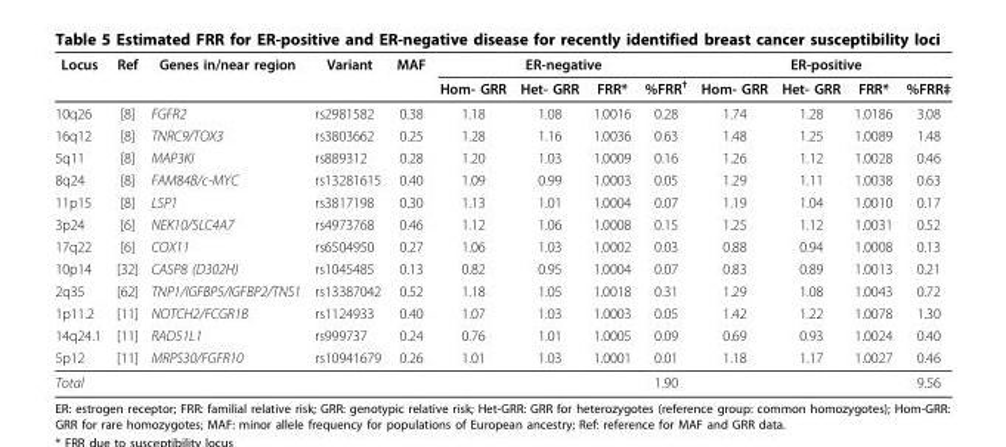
<table><thead><tr><td rowspan="2">Locus</td><td rowspan="2">Ref</td><td rowspan="2">Genes in/near region</td><td rowspan="2">Variant</td><td rowspan="2">MAF</td><td colspan="4">ER-negative</td><td colspan="4">ER-positive</td></tr><tr><td>Hom- GRR</td><td>Het- GRR</td><td>FRR*</td><td>%FRR<sup>†</sup></td><td>Hom- GRR</td><td>Het- GRR</td><td>FRR*</td><td>%FRR‡</td></tr></thead><tbody><tr><td>10q26</td><td>[8]</td><td>FGFR2</td><td>rs2981582</td><td>0.38</td><td>1.18</td><td>1.08</td><td>1.0016</td><td>0.28</td><td>1.74</td><td>1.28</td><td>1.0186</td><td>3.08</td></tr><tr><td>16q12</td><td>[8]</td><td>TNRC9/TOX3</td><td>rs3803662</td><td>0.25</td><td>1.28</td><td>1.16</td><td>1.0036</td><td>0.63</td><td>1.48</td><td>1.25</td><td>1.0089</td><td>1.48</td></tr><tr><td>5q11</td><td>[8]</td><td>MAP3KI</td><td>rs889312</td><td>0.28</td><td>1.20</td><td>1.03</td><td>1.0009</td><td>0.16</td><td>1.26</td><td>1.12</td><td>1.0028</td><td>0.46</td></tr><tr><td>8q24</td><td>[8]</td><td>FAM84B/c-MYC</td><td>rs13281615</td><td>0.40</td><td>1.09</td><td>0.99</td><td>1.0003</td><td>0.05</td><td>1.29</td><td>1.11</td><td>1.0038</td><td>0.63</td></tr><tr><td>11p15</td><td>[8]</td><td>LSP1</td><td>rs3817198</td><td>0.30</td><td>1.13</td><td>1.01</td><td>1.0004</td><td>0.07</td><td>1.19</td><td>1.04</td><td>1.0010</td><td>0.17</td></tr><tr><td>3p24</td><td>[6]</td><td>NEK10/SLC4A7</td><td>rs4973768</td><td>0.46</td><td>1.12</td><td>1.06</td><td>1.0008</td><td>0.15</td><td>1.25</td><td>1.12</td><td>1.0031</td><td>0.52</td></tr><tr><td>17q22</td><td>[6]</td><td>COX11</td><td>rs6504950</td><td>0.27</td><td>1.06</td><td>1.03</td><td>1.0002</td><td>0.03</td><td>0.88</td><td>0.94</td><td>1.0008</td><td>0.13</td></tr><tr><td>10p14</td><td>[32]</td><td>CASP8 (D302H)</td><td>rs1045485</td><td>0.13</td><td>0.82</td><td>0.95</td><td>1.0004</td><td>0.07</td><td>0.83</td><td>0.89</td><td>1.0013</td><td>0.21</td></tr><tr><td>2q35</td><td>[62]</td><td>TNP1/IGFBP5/IGFBP2/TNS1</td><td>rs13387042</td><td>0.52</td><td>1.18</td><td>1.05</td><td>1.0018</td><td>0.31</td><td>1.29</td><td>1.08</td><td>1.0043</td><td>0.72</td></tr><tr><td>1p11.2</td><td>[11]</td><td>NOTCH2/FCGR1B</td><td>rs1124933</td><td>0.40</td><td>1.07</td><td>1.03</td><td>1.0003</td><td>0.05</td><td>1.42</td><td>1.22</td><td>1.0078</td><td>1.30</td></tr><tr><td>14q24.1</td><td>[11]</td><td>RAD51L1</td><td>rs999737</td><td>0.24</td><td>0.76</td><td>1.01</td><td>1.0005</td><td>0.09</td><td>0.69</td><td>0.93</td><td>1.0024</td><td>0.40</td></tr><tr><td>5p12</td><td>[11]</td><td>MRPS30/FGFR10</td><td>rs10941679</td><td>0.26</td><td>1.01</td><td>1.03</td><td>1.0001</td><td>0.01</td><td>1.18</td><td>1.17</td><td>1.0027</td><td>0.46</td></tr><tr><td>Total</td><td></td><td></td><td></td><td></td><td></td><td></td><td></td><td>1.90</td><td></td><td></td><td></td><td>9.56</td></tr></tbody></table>